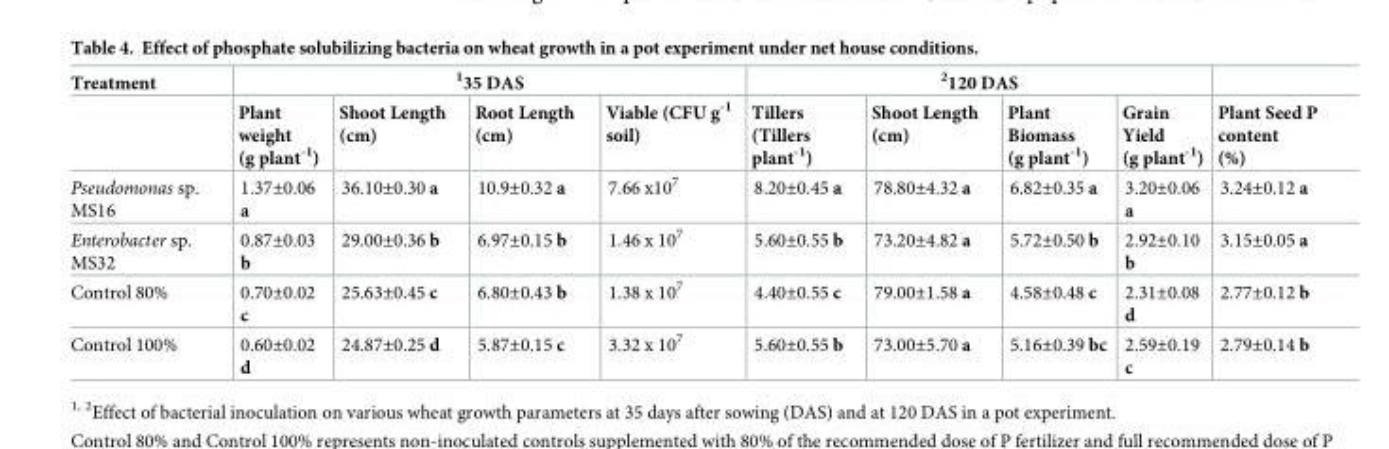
<table><thead><tr><td rowspan="2">Treatment</td><td colspan="4"><sup>1</sup>35 DAS</td><td colspan="4"><sup>2</sup>120 DAS</td><td rowspan="2">Plant Seed P content (%)</td></tr><tr><td>Plant weight (g plant<sup>-1</sup>)</td><td>Shoot Length (cm)</td><td>Root Length (cm)</td><td>Viable (CFU g<sup>-1</sup> soil)</td><td>Tillers (Tillers plant<sup>-1</sup>)</td><td>Shoot Length (cm)</td><td>Plant Biomass (g plant<sup>-1</sup>)</td><td>Grain Yield (g plant<sup>-1</sup>)</td></tr></thead><tbody><tr><td>Pseudomonas sp. MS16</td><td>1.37±0.06 a</td><td>36.10±0.30 a</td><td>10.9±0.32 a</td><td>7.66 x10<sup>7</sup></td><td>8.20±0.45 a</td><td>78.80±4.32 a</td><td>6.82±0.35 a</td><td>3.20±0.06 a</td><td>3.24±0.12 a</td></tr><tr><td>Enterobacter sp. MS32</td><td>0.87±0.03 b</td><td>29.00±0.36 b</td><td>6.97±0.15 b</td><td>1.46 x 10<sup>7</sup></td><td>5.60±0.55 b</td><td>73.20±4.82 a</td><td>5.72±0.50 b</td><td>2.92±0.10 b</td><td>3.15±0.05 a</td></tr><tr><td>Control 80%</td><td>0.70±0.02 c</td><td>25.63±0.45 c</td><td>6.80±0.43 b</td><td>1.38 x 10<sup>7</sup></td><td>4.40±0.55 c</td><td>79.00±1.58 a</td><td>4.58±0.48 c</td><td>2.31±0.08 d</td><td>2.77±0.12 b</td></tr><tr><td>Control 100%</td><td>0.60±0.02 d</td><td>24.87±0.25 d</td><td>5.87±0.15 c</td><td>3.32 x 10<sup>7</sup></td><td>5.60±0.55 b</td><td>73.00±5.70 a</td><td>5.16±0.39 bc</td><td>2.59±0.19 c</td><td>2.79±0.14 b</td></tr></tbody></table>